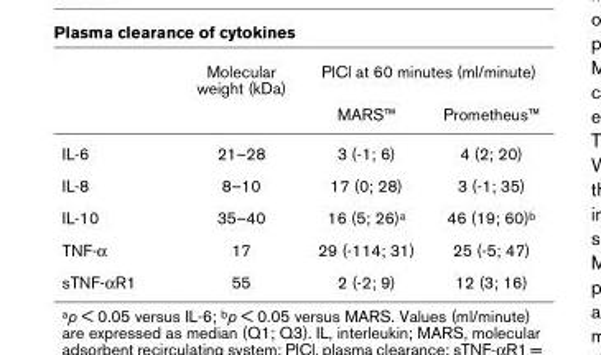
<table><thead><tr><td rowspan="2"></td><td rowspan="2">Molecular weight (kDa)</td><td colspan="2">PlCl at 60 minutes (ml/minute)</td></tr><tr><td>MARS™</td><td>Prometheus™</td></tr></thead><tbody><tr><td>IL-6</td><td>21–28</td><td>3 (-1; 6)</td><td>4 (2; 20)</td></tr><tr><td>IL-8</td><td>8–10</td><td>17 (0; 28)</td><td>3 (-1; 35)</td></tr><tr><td>IL-10</td><td>35–40</td><td>16 (5; 26)a</td><td>46 (19; 60)b</td></tr><tr><td>TNF-α</td><td>17</td><td>29 (-114; 31)</td><td>25 (-5; 47)</td></tr><tr><td>sTNF-αR1</td><td>55</td><td>2 (-2; 9)</td><td>12 (3; 16)</td></tr></tbody></table>